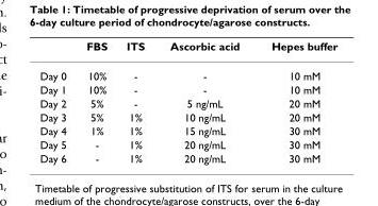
<table><thead><tr><td></td><td>FBS</td><td>ITS</td><td>Ascorbic acid</td><td>Hepes buffer</td></tr></thead><tbody><tr><td>Day 0</td><td>10%</td><td>-</td><td>-</td><td>10 mM</td></tr><tr><td>Day 1</td><td>10%</td><td>-</td><td>-</td><td>10 mM</td></tr><tr><td>Day 2</td><td>5%</td><td>-</td><td>5 ng/mL</td><td>20 mM</td></tr><tr><td>Day 3</td><td>5%</td><td>1%</td><td>10 ng/mL</td><td>20 mM</td></tr><tr><td>Day 4</td><td>1%</td><td>1%</td><td>15 ng/mL</td><td>30 mM</td></tr><tr><td>Day 5</td><td>-</td><td>1%</td><td>20 ng/mL</td><td>30 mM</td></tr><tr><td>Day 6</td><td>-</td><td>1%</td><td>20 ng/mL</td><td>30 mM</td></tr></tbody></table>